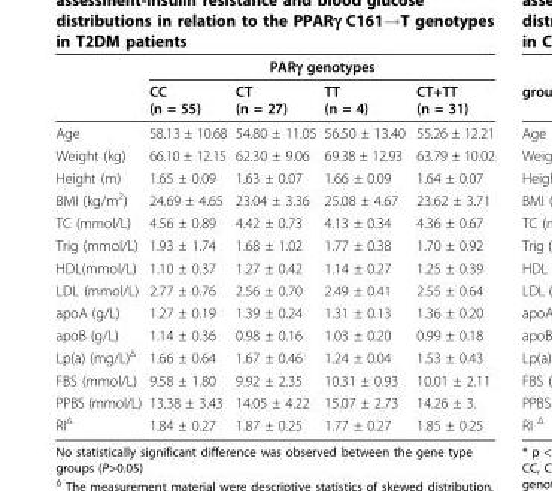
<table><thead><tr><td rowspan="2"></td><td colspan="4">PARγ genotypes</td></tr><tr><td>CC (n = 55)</td><td>CT (n = 27)</td><td>TT (n = 4)</td><td>CT+TT (n = 31)</td></tr></thead><tbody><tr><td>Age</td><td>58.13 ± 10.68</td><td>54.80 ± 11.05</td><td>56.50 ± 13.40</td><td>55.26 ± 12.21</td></tr><tr><td>Weight (kg)</td><td>66.10 ± 12.15</td><td>62.30 ± 9.06</td><td>69.38 ± 12.93</td><td>63.79 ± 10.02</td></tr><tr><td>Height (m)</td><td>1.65 ± 0.09</td><td>1.63 ± 0.07</td><td>1.66 ± 0.09</td><td>1.64 ± 0.07</td></tr><tr><td>BMI (kg/m<sup>2</sup>)</td><td>24.69 ± 4.65</td><td>23.04 ± 3.36</td><td>25.08 ± 4.67</td><td>23.62 ± 3.71</td></tr><tr><td>TC (mmol/L)</td><td>4.56 ± 0.89</td><td>4.42 ± 0.73</td><td>4.13 ± 0.34</td><td>4.36 ± 0.67</td></tr><tr><td>Trig (mmol/L)</td><td>1.93 ± 1.74</td><td>1.68 ± 1.02</td><td>1.77 ± 0.38</td><td>1.70 ± 0.92</td></tr><tr><td>HDL(mmol/L)</td><td>1.10 ± 0.37</td><td>1.27 ± 0.42</td><td>1.14 ± 0.27</td><td>1.25 ± 0.39</td></tr><tr><td>LDL (mmol/L)</td><td>2.77 ± 0.76</td><td>2.56 ± 0.70</td><td>2.49 ± 0.41</td><td>2.55 ± 0.64</td></tr><tr><td>apoA (g/L)</td><td>1.27 ± 0.19</td><td>1.39 ± 0.24</td><td>1.31 ± 0.13</td><td>1.36 ± 0.20</td></tr><tr><td>apoB (g/L)</td><td>1.14 ± 0.36</td><td>0.98 ± 0.16</td><td>1.03 ± 0.20</td><td>0.99 ± 0.18</td></tr><tr><td>Lp(a) (mg/L)<sup>Δ</sup></td><td>1.66 ± 0.64</td><td>1.67 ± 0.46</td><td>1.24 ± 0.04</td><td>1.53 ± 0.43</td></tr><tr><td>FBS (mmol/L)</td><td>9.58 ± 1.80</td><td>9.92 ± 2.35</td><td>10.31 ± 0.93</td><td>10.01 ± 2.11</td></tr><tr><td>PPBS (mmol/L)</td><td>13.38 ± 3.43</td><td>14.05 ± 4.22</td><td>15.07 ± 2.73</td><td>14.26 ± 3.</td></tr><tr><td>RI<sup>Δ</sup></td><td>1.84 ± 0.27</td><td>1.87 ± 0.25</td><td>1.77 ± 0.27</td><td>1.85 ± 0.25</td></tr></tbody></table>